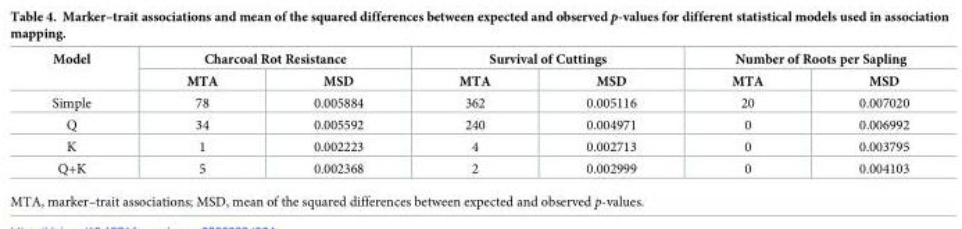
<table><thead><tr><td rowspan="2">Model</td><td colspan="2">Charcoal Rot Resistance</td><td colspan="2">Survival of Cuttings</td><td colspan="2">Number of Roots per Sapling</td></tr><tr><td>MTA</td><td>MSD</td><td>MTA</td><td>MSD</td><td>MTA</td><td>MSD</td></tr></thead><tbody><tr><td>Simple</td><td>78</td><td>0.005884</td><td>362</td><td>0.005116</td><td>20</td><td>0.007020</td></tr><tr><td>Q</td><td>34</td><td>0.005592</td><td>240</td><td>0.004971</td><td>0</td><td>0.006992</td></tr><tr><td>K</td><td>1</td><td>0.002223</td><td>4</td><td>0.002713</td><td>0</td><td>0.003795</td></tr><tr><td>Q+K</td><td>5</td><td>0.002368</td><td>2</td><td>0.002999</td><td>0</td><td>0.004103</td></tr></tbody></table>